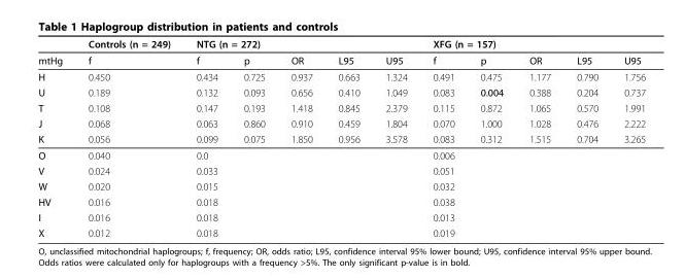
<table><thead><tr><td rowspan="2">mtHg</td><td rowspan="2">Controls (n = 249) f</td><td colspan="5">NTG (n = 272)</td><td colspan="5">XFG (n = 157)</td></tr><tr><td>f</td><td>p</td><td>OR</td><td>L95</td><td>U95</td><td>f</td><td>p</td><td>OR</td><td>L95</td><td>U95</td></tr></thead><tbody><tr><td>H</td><td>0.450</td><td>0.434</td><td>0.725</td><td>0.937</td><td>0.663</td><td>1.324</td><td>0.491</td><td>0.475</td><td>1.177</td><td>0.790</td><td>1.756</td></tr><tr><td>U</td><td>0.189</td><td>0.132</td><td>0.093</td><td>0.656</td><td>0.410</td><td>1.049</td><td>0.083</td><td>0.004</td><td>0.388</td><td>0.204</td><td>0.737</td></tr><tr><td>T</td><td>0.108</td><td>0.147</td><td>0.193</td><td>1.418</td><td>0.845</td><td>2.379</td><td>0.115</td><td>0.872</td><td>1.065</td><td>0.570</td><td>1.991</td></tr><tr><td>J</td><td>0.068</td><td>0.063</td><td>0.860</td><td>0.910</td><td>0.459</td><td>1.804</td><td>0.070</td><td>1.000</td><td>1.028</td><td>0.476</td><td>2.222</td></tr><tr><td>K</td><td>0.056</td><td>0.099</td><td>0.075</td><td>1.850</td><td>0.956</td><td>3.578</td><td>0.083</td><td>0.312</td><td>1.515</td><td>0.704</td><td>3.265</td></tr><tr><td>O</td><td>0.040</td><td>0.0</td><td></td><td></td><td></td><td></td><td>0.006</td><td></td><td></td><td></td><td></td></tr><tr><td>V</td><td>0.024</td><td>0.033</td><td></td><td></td><td></td><td></td><td>0.051</td><td></td><td></td><td></td><td></td></tr><tr><td>W</td><td>0.020</td><td>0.015</td><td></td><td></td><td></td><td></td><td>0.032</td><td></td><td></td><td></td><td></td></tr><tr><td>HV</td><td>0.016</td><td>0.018</td><td></td><td></td><td></td><td></td><td>0.038</td><td></td><td></td><td></td><td></td></tr><tr><td>I</td><td>0.016</td><td>0.018</td><td></td><td></td><td></td><td></td><td>0.013</td><td></td><td></td><td></td><td></td></tr><tr><td>X</td><td>0.012</td><td>0.018</td><td></td><td></td><td></td><td></td><td>0.019</td><td></td><td></td><td></td><td></td></tr></tbody></table>